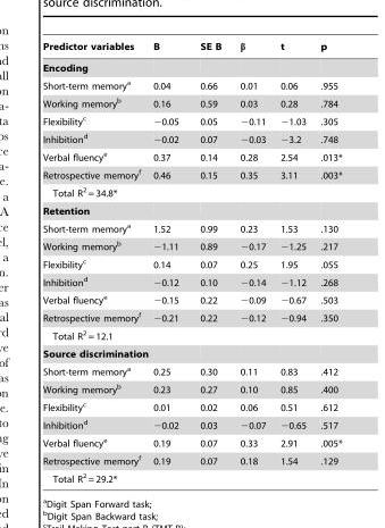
<table><thead><tr><td>Predictor variables</td><td>B</td><td>SE B</td><td>β</td><td>t</td><td>p</td></tr></thead><tbody><tr><td colspan="6">Encoding</td></tr><tr><td>Short-term memory<sup>a</sup></td><td>0.04</td><td>0.66</td><td>0.01</td><td>0.06</td><td>.955</td></tr><tr><td>Working memory<sup>b</sup></td><td>0.16</td><td>0.59</td><td>0.03</td><td>0.28</td><td>.784</td></tr><tr><td>Flexibility<sup>c</sup></td><td>−0.05</td><td>0.05</td><td>−0.11</td><td>−1.03</td><td>.305</td></tr><tr><td>Inhibition<sup>d</sup></td><td>−0.02</td><td>0.07</td><td>−0.03</td><td>−3.2</td><td>.748</td></tr><tr><td>Verbal fluency<sup>e</sup></td><td>0.37</td><td>0.14</td><td>0.28</td><td>2.54</td><td>.013*</td></tr><tr><td>Retrospective memory<sup>f</sup></td><td>0.46</td><td>0.15</td><td>0.35</td><td>3.11</td><td>.003*</td></tr><tr><td colspan="6">Total R<sup>2</sup> = 34.8*</td></tr><tr><td colspan="6">Retention</td></tr><tr><td>Short-term memory<sup>a</sup></td><td>1.52</td><td>0.99</td><td>0.23</td><td>1.53</td><td>.130</td></tr><tr><td>Working memory<sup>b</sup></td><td>−1.11</td><td>0.89</td><td>−0.17</td><td>−1.25</td><td>.217</td></tr><tr><td>Flexibility<sup>c</sup></td><td>0.14</td><td>0.07</td><td>0.25</td><td>1.95</td><td>.055</td></tr><tr><td>Inhibition<sup>d</sup></td><td>−0.12</td><td>0.10</td><td>−0.14</td><td>−1.12</td><td>.268</td></tr><tr><td>Verbal fluency<sup>e</sup></td><td>−0.15</td><td>0.22</td><td>−0.09</td><td>−0.67</td><td>.503</td></tr><tr><td>Retrospective memory<sup>f</sup></td><td>−0.21</td><td>0.22</td><td>−0.12</td><td>−0.94</td><td>.350</td></tr><tr><td colspan="6">Total R<sup>2</sup> = 12.1</td></tr><tr><td colspan="6">Source discrimination</td></tr><tr><td>Short-term memory<sup>a</sup></td><td>0.25</td><td>0.30</td><td>0.11</td><td>0.83</td><td>.412</td></tr><tr><td>Working memory<sup>b</sup></td><td>0.23</td><td>0.27</td><td>0.10</td><td>0.85</td><td>.400</td></tr><tr><td>Flexibility<sup>c</sup></td><td>0.01</td><td>0.02</td><td>0.06</td><td>0.51</td><td>.612</td></tr><tr><td>Inhibition<sup>d</sup></td><td>−0.02</td><td>0.03</td><td>−0.07</td><td>−0.65</td><td>.517</td></tr><tr><td>Verbal fluency<sup>e</sup></td><td>0.19</td><td>0.07</td><td>0.33</td><td>2.91</td><td>.005*</td></tr><tr><td>Retrospective memory<sup>f</sup></td><td>0.19</td><td>0.07</td><td>0.18</td><td>1.54</td><td>.129</td></tr><tr><td>Total R<sup>2</sup> = 29.2*</td><td></td><td></td><td></td><td></td><td></td></tr></tbody></table>